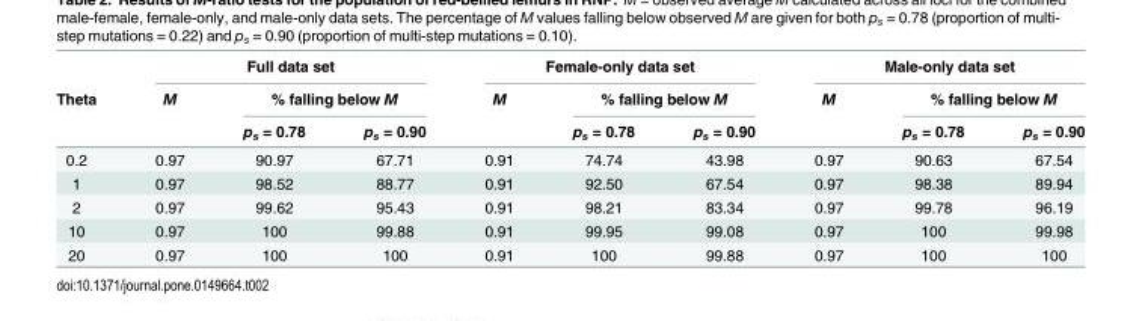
<table><thead><tr><td rowspan="3">Theta</td><td colspan="3">Full data set</td><td colspan="3">Female-only data set</td><td colspan="3">Male-only data set</td></tr><tr><td rowspan="2">M</td><td colspan="2">% falling below M</td><td rowspan="2">M</td><td colspan="2">% falling below M</td><td rowspan="2">M</td><td colspan="2">% falling below M</td></tr><tr><td>p<sub>s</sub> = 0.78</td><td>p<sub>s</sub> = 0.90</td><td>p<sub>s</sub> = 0.78</td><td>p<sub>s</sub> = 0.90</td><td>p<sub>s</sub> = 0.78</td><td>p<sub>s</sub> = 0.90</td></tr></thead><tbody><tr><td>0.2</td><td>0.97</td><td>90.97</td><td>67.71</td><td>0.91</td><td>74.74</td><td>43.98</td><td>0.97</td><td>90.63</td><td>67.54</td></tr><tr><td>1</td><td>0.97</td><td>98.52</td><td>88.77</td><td>0.91</td><td>92.50</td><td>67.54</td><td>0.97</td><td>98.38</td><td>89.94</td></tr><tr><td>2</td><td>0.97</td><td>99.62</td><td>95.43</td><td>0.91</td><td>98.21</td><td>83.34</td><td>0.97</td><td>99.78</td><td>96.19</td></tr><tr><td>10</td><td>0.97</td><td>100</td><td>99.88</td><td>0.91</td><td>99.95</td><td>99.08</td><td>0.97</td><td>100</td><td>99.98</td></tr><tr><td>20</td><td>0.97</td><td>100</td><td>100</td><td>0.91</td><td>100</td><td>99.88</td><td>0.97</td><td>100</td><td>100</td></tr></tbody></table>